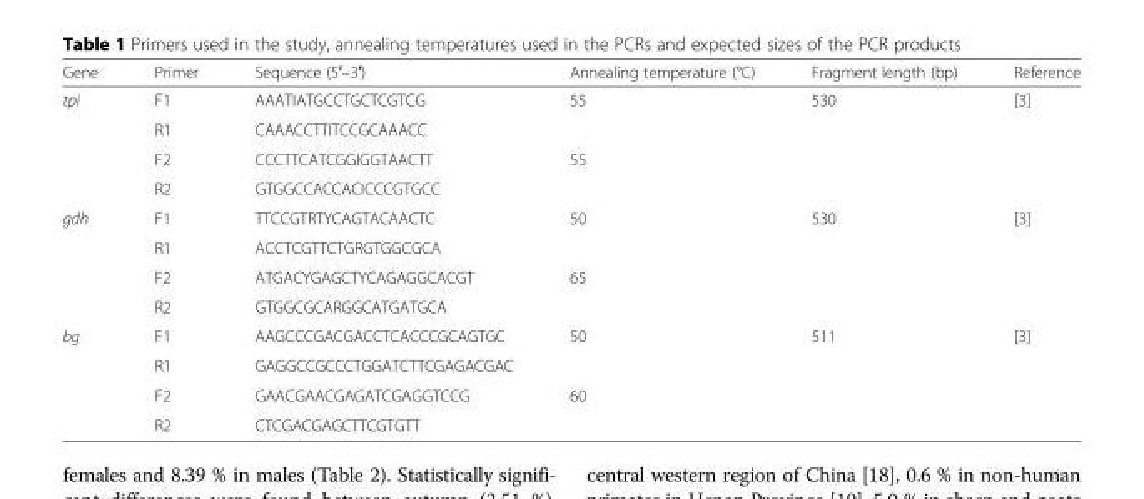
<table><thead><tr><td>Gene</td><td>Primer</td><td>Sequence (5′–3′)</td><td>Annealing temperature (°C)</td><td>Fragment length (bp)</td><td>Reference</td></tr></thead><tbody><tr><td rowspan="4">tpi</td><td>F1</td><td>AAATIATGCCTGCTCGTCG</td><td rowspan="2">55</td><td rowspan="4">530</td><td rowspan="4">[3]</td></tr><tr><td>R1</td><td>CAAACCTTITCCGCAAACC</td></tr><tr><td>F2</td><td>CCCTTCATCGGIGGTAACTT</td><td rowspan="2">55</td></tr><tr><td>R2</td><td>GTGGCCACCACICCCGTGCC</td></tr><tr><td rowspan="4">gdh</td><td>F1</td><td>TTCCGTRTYCAGTACAACTC</td><td rowspan="2">50</td><td rowspan="4">530</td><td rowspan="4">[3]</td></tr><tr><td>R1</td><td>ACCTCGTTCTGRGTGGCGCA</td></tr><tr><td>F2</td><td>ATGACYGAGCTYCAGAGGCACGT</td><td rowspan="2">65</td></tr><tr><td>R2</td><td>GTGGCGCARGGCATGATGCA</td></tr><tr><td rowspan="4">bg</td><td>F1</td><td>AAGCCCGACGACCTCACCCGCAGTGC</td><td rowspan="2">50</td><td rowspan="4">511</td><td rowspan="4">[3]</td></tr><tr><td>R1</td><td>GAGGCCGCCCTGGATCTTCGAGACGAC</td></tr><tr><td>F2</td><td>GAACGAACGAGATCGAGGTCCG</td><td rowspan="2">60</td></tr><tr><td>R2</td><td>CTCGACGAGCTTCGTGTT</td></tr></tbody></table>